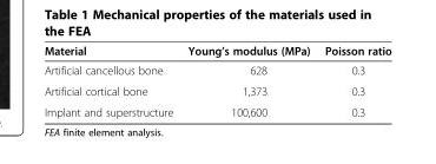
<table><thead><tr><td>Material</td><td>Young’s modulus (MPa)</td><td>Poisson ratio</td></tr></thead><tbody><tr><td>Artificial cancellous bone</td><td>628</td><td>0.3</td></tr><tr><td>Artificial cortical bone</td><td>1,373</td><td>0.3</td></tr><tr><td>Implant and superstructure</td><td>100,600</td><td>0.3</td></tr></tbody></table>